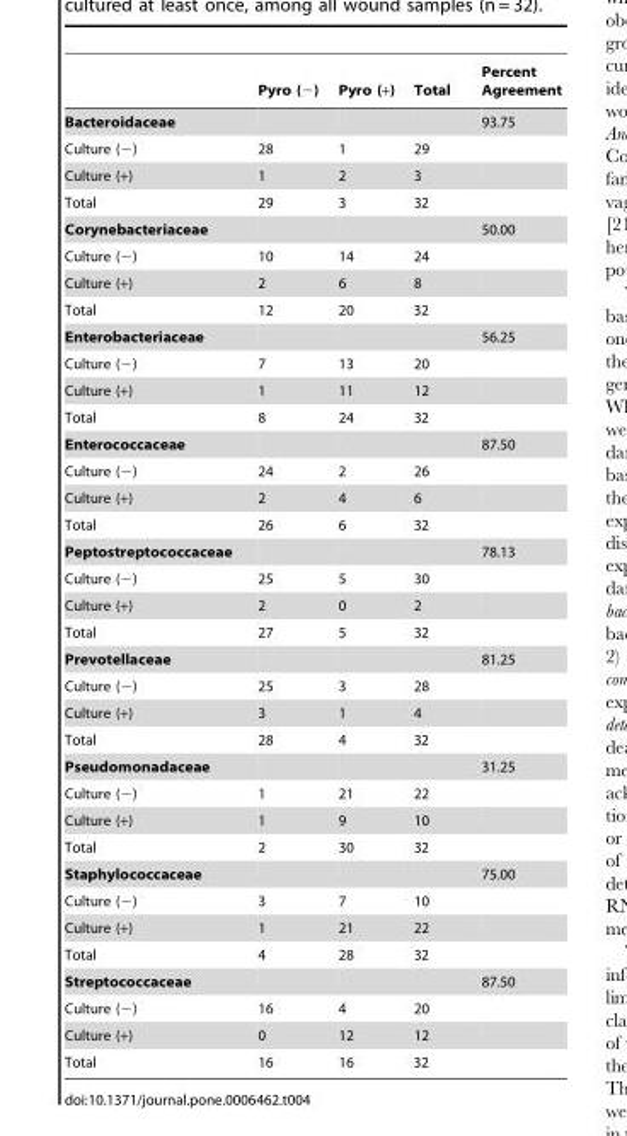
<table><thead><tr><td></td><td>Pyro (−)</td><td>Pyro (+)</td><td>Total</td><td>Percent Agreement</td></tr></thead><tbody><tr><td>Bacteroidaceae</td><td></td><td></td><td></td><td>93.75</td></tr><tr><td>Culture (−)</td><td>28</td><td>1</td><td>29</td><td></td></tr><tr><td>Culture (+)</td><td>1</td><td>2</td><td>3</td><td></td></tr><tr><td>Total</td><td>29</td><td>3</td><td>32</td><td></td></tr><tr><td>Corynebacteriaceae</td><td></td><td></td><td></td><td>50.00</td></tr><tr><td>Culture (−)</td><td>10</td><td>14</td><td>24</td><td></td></tr><tr><td>Culture (+)</td><td>2</td><td>6</td><td>8</td><td></td></tr><tr><td>Total</td><td>12</td><td>20</td><td>32</td><td></td></tr><tr><td>Enterobacteriaceae</td><td></td><td></td><td></td><td>56.25</td></tr><tr><td>Culture (−)</td><td>7</td><td>13</td><td>20</td><td></td></tr><tr><td>Culture (+)</td><td>1</td><td>11</td><td>12</td><td></td></tr><tr><td>Total</td><td>8</td><td>24</td><td>32</td><td></td></tr><tr><td>Enterococcaceae</td><td></td><td></td><td></td><td>87.50</td></tr><tr><td>Culture (−)</td><td>24</td><td>2</td><td>26</td><td></td></tr><tr><td>Culture (+)</td><td>2</td><td>4</td><td>6</td><td></td></tr><tr><td>Total</td><td>26</td><td>6</td><td>32</td><td></td></tr><tr><td>Peptostreptococcaceae</td><td></td><td></td><td></td><td>78.13</td></tr><tr><td>Culture (−)</td><td>25</td><td>5</td><td>30</td><td></td></tr><tr><td>Culture (+)</td><td>2</td><td>0</td><td>2</td><td></td></tr><tr><td>Total</td><td>27</td><td>5</td><td>32</td><td></td></tr><tr><td>Prevotellaceae</td><td></td><td></td><td></td><td>81.25</td></tr><tr><td>Culture (−)</td><td>25</td><td>3</td><td>28</td><td></td></tr><tr><td>Culture (+)</td><td>3</td><td>1</td><td>4</td><td></td></tr><tr><td>Total</td><td>28</td><td>4</td><td>32</td><td></td></tr><tr><td>Pseudomonadaceae</td><td></td><td></td><td></td><td>31.25</td></tr><tr><td>Culture (−)</td><td>1</td><td>21</td><td>22</td><td></td></tr><tr><td>Culture (+)</td><td>1</td><td>9</td><td>10</td><td></td></tr><tr><td>Total</td><td>2</td><td>30</td><td>32</td><td></td></tr><tr><td>Staphylococcaceae</td><td></td><td></td><td></td><td>75.00</td></tr><tr><td>Culture (−)</td><td>3</td><td>7</td><td>10</td><td></td></tr><tr><td>Culture (+)</td><td>1</td><td>21</td><td>22</td><td></td></tr><tr><td>Total</td><td>4</td><td>28</td><td>32</td><td></td></tr><tr><td>Streptococcaceae</td><td></td><td></td><td></td><td>87.50</td></tr><tr><td>Culture (−)</td><td>16</td><td>4</td><td>20</td><td></td></tr><tr><td>Culture (+)</td><td>0</td><td>12</td><td>12</td><td></td></tr><tr><td>Total</td><td>16</td><td>16</td><td>32</td><td></td></tr></tbody></table>